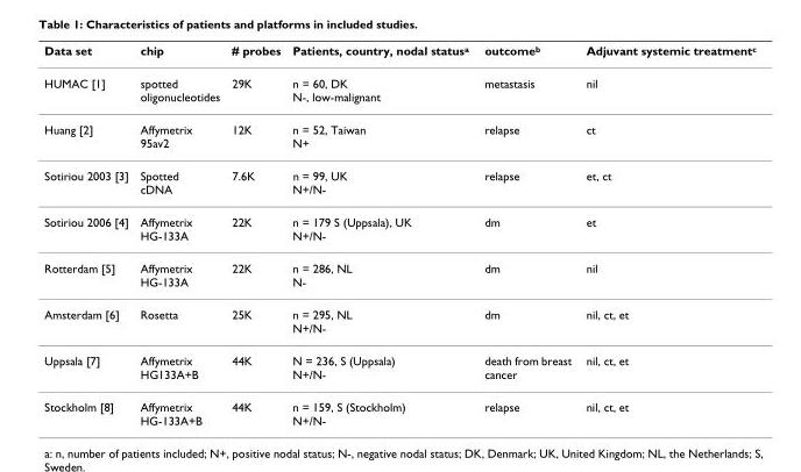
<table><thead><tr><td>Data set</td><td>chip</td><td># probes</td><td>Patients, country, nodal status<sup>a</sup></td><td>outcome<sup>b</sup></td><td>Adjuvant systemic treatment<sup>c</sup></td></tr></thead><tbody><tr><td>HUMAC [1]</td><td>spotted oligonucleotides</td><td>29K</td><td>n = 60, DK N-, low-malignant</td><td>metastasis</td><td>nil</td></tr><tr><td>Huang [2]</td><td>Affymetrix 95av2</td><td>12K</td><td>n = 52, Taiwan N+</td><td>relapse</td><td>ct</td></tr><tr><td>Sotiriou 2003 [3]</td><td>Spotted cDNA</td><td>7.6K</td><td>n = 99, UK N+/N-</td><td>relapse</td><td>et, ct</td></tr><tr><td>Sotiriou 2006 [4]</td><td>Affymetrix HG-133A</td><td>22K</td><td>n = 179 S (Uppsala), UK N+/N-</td><td>dm</td><td>et</td></tr><tr><td>Rotterdam [5]</td><td>Affymetrix HG-133A</td><td>22K</td><td>n = 286, NL N-</td><td>dm</td><td>nil</td></tr><tr><td>Amsterdam [6]</td><td>Rosetta</td><td>25K</td><td>n = 295, NL N+/N-</td><td>dm</td><td>nil, ct, et</td></tr><tr><td>Uppsala [7]</td><td>Affymetrix HG133A+B</td><td>44K</td><td>N = 236, S (Uppsala) N+/N-</td><td>death from breast cancer</td><td>nil, ct, et</td></tr><tr><td>Stockholm [8]</td><td>Affymetrix HG-133A+B</td><td>44K</td><td>n = 159, S (Stockholm) N+/N-</td><td>relapse</td><td>nil, ct, et</td></tr></tbody></table>